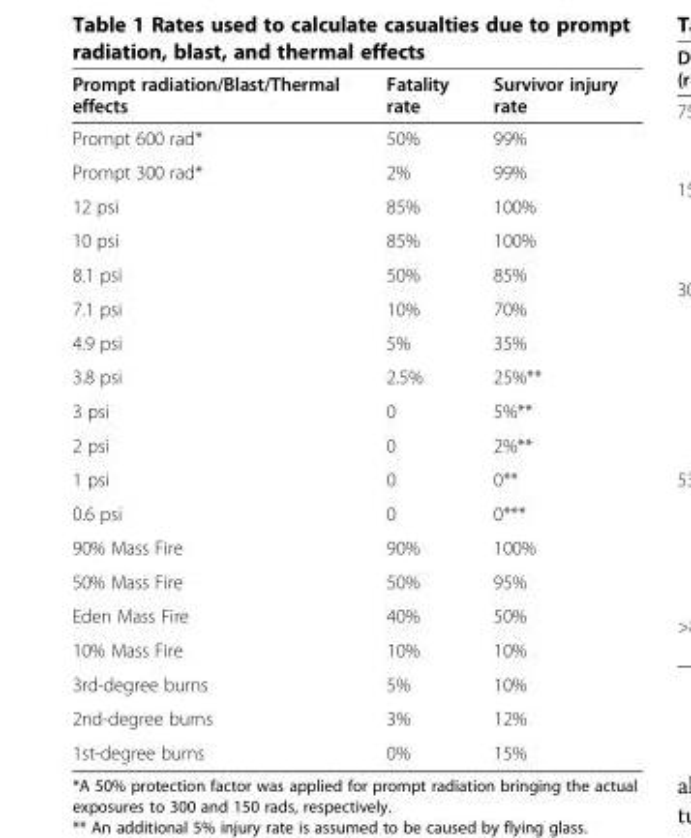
<table><thead><tr><td>Prompt radiation/Blast/Thermal effects</td><td>Fatality rate</td><td>Survivor injury rate</td></tr></thead><tbody><tr><td>Prompt 600 rad*</td><td>50%</td><td>99%</td></tr><tr><td>Prompt 300 rad*</td><td>2%</td><td>99%</td></tr><tr><td>12 psi</td><td>85%</td><td>100%</td></tr><tr><td>10 psi</td><td>85%</td><td>100%</td></tr><tr><td>8.1 psi</td><td>50%</td><td>85%</td></tr><tr><td>7.1 psi</td><td>10%</td><td>70%</td></tr><tr><td>4.9 psi</td><td>5%</td><td>35%</td></tr><tr><td>3.8 psi</td><td>2.5%</td><td>25%**</td></tr><tr><td>3 psi</td><td>0</td><td>5%**</td></tr><tr><td>2 psi</td><td>0</td><td>2%**</td></tr><tr><td>1 psi</td><td>0</td><td>0**</td></tr><tr><td>0.6 psi</td><td>0</td><td>0***</td></tr><tr><td>90% Mass Fire</td><td>90%</td><td>100%</td></tr><tr><td>50% Mass Fire</td><td>50%</td><td>95%</td></tr><tr><td>Eden Mass Fire</td><td>40%</td><td>50%</td></tr><tr><td>10% Mass Fire</td><td>10%</td><td>10%</td></tr><tr><td>3rd-degree burns</td><td>5%</td><td>10%</td></tr><tr><td>2nd-degree burns</td><td>3%</td><td>12%</td></tr><tr><td>1st-degree burns</td><td>0%</td><td>15%</td></tr></tbody></table>